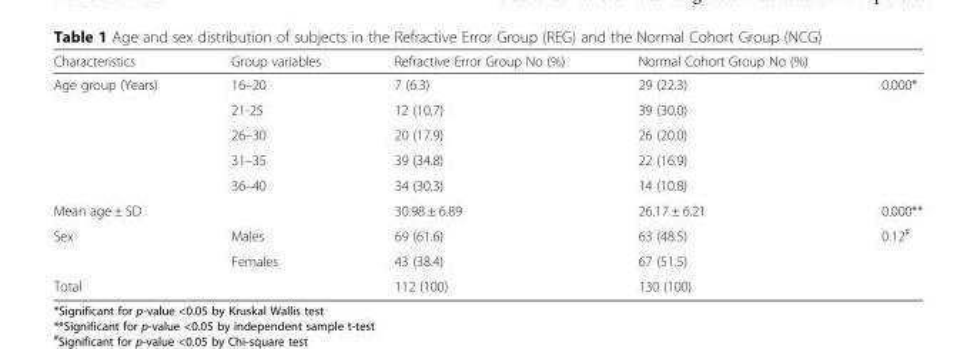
<table><thead><tr><td>Characteristics</td><td>Group variables</td><td>Refractive Error Group No (%)</td><td>Normal Cohort Group No (%)</td><td></td></tr></thead><tbody><tr><td rowspan="5">Age group (Years)</td><td>16–20</td><td>7 (6.3)</td><td>29 (22.3)</td><td rowspan="5">0.000*</td></tr><tr><td>21-25</td><td>12 (10.7)</td><td>39 (30.0)</td></tr><tr><td>26–30</td><td>20 (17.9)</td><td>26 (20.0)</td></tr><tr><td>31–35</td><td>39 (34.8)</td><td>22 (16.9)</td></tr><tr><td>36–40</td><td>34 (30.3)</td><td>14 (10.8)</td></tr><tr><td colspan="2">Mean age ± SD</td><td>30.98 ± 6.89</td><td>26.17 ± 6.21</td><td>0.000**</td></tr><tr><td rowspan="2">Sex</td><td>Males</td><td>69 (61.6)</td><td>63 (48.5)</td><td rowspan="2">0.12<sup>#</sup></td></tr><tr><td>Females</td><td>43 (38.4)</td><td>67 (51.5)</td></tr><tr><td colspan="2">Total</td><td>112 (100)</td><td>130 (100)</td><td></td></tr></tbody></table>